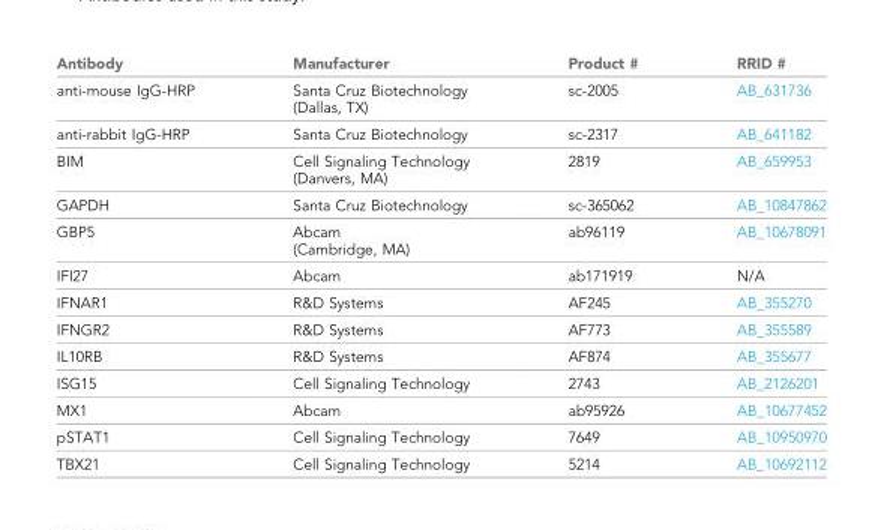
<table><thead><tr><td>Antibody</td><td>Manufacturer</td><td>Product #</td><td>RRID #</td></tr></thead><tbody><tr><td>anti-mouse IgG-HRP</td><td>Santa Cruz Biotechnology (Dallas, TX)</td><td>sc-2005</td><td>AB_631736</td></tr><tr><td>anti-rabbit IgG-HRP</td><td>Santa Cruz Biotechnology</td><td>sc-2317</td><td>AB_641182</td></tr><tr><td>BIM</td><td>Cell Signaling Technology (Danvers, MA)</td><td>2819</td><td>AB_659953</td></tr><tr><td>GAPDH</td><td>Santa Cruz Biotechnology</td><td>sc-365062</td><td>AB_10847862</td></tr><tr><td>GBP5</td><td>Abcam (Cambridge, MA)</td><td>ab96119</td><td>AB_10678091</td></tr><tr><td>IFI27</td><td>Abcam</td><td>ab171919</td><td>N/A</td></tr><tr><td>IFNAR1</td><td>R&amp;D Systems</td><td>AF245</td><td>AB_355270</td></tr><tr><td>IFNGR2</td><td>R&amp;D Systems</td><td>AF773</td><td>AB_355589</td></tr><tr><td>IL10RB</td><td>R&amp;D Systems</td><td>AF874</td><td>AB_355677</td></tr><tr><td>ISG15</td><td>Cell Signaling Technology</td><td>2743</td><td>AB_2126201</td></tr><tr><td>MX1</td><td>Abcam</td><td>ab95926</td><td>AB_10677452</td></tr><tr><td>pSTAT1</td><td>Cell Signaling Technology</td><td>7649</td><td>AB_10950970</td></tr><tr><td>TBX21</td><td>Cell Signaling Technology</td><td>5214</td><td>AB_10692112</td></tr></tbody></table>